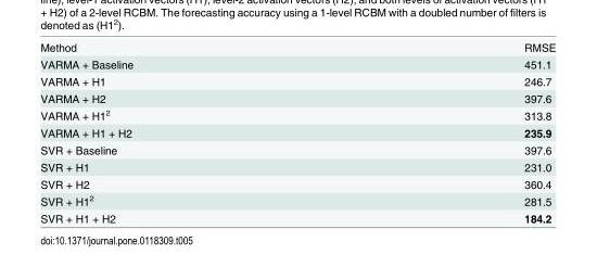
<table><tbody><tr><td>Method</td><td>RMSE</td></tr><tr><td>VARMA + Baseline</td><td>451.1</td></tr><tr><td>VARMA + H1</td><td>246.7</td></tr><tr><td>VARMA + H2</td><td>397.6</td></tr><tr><td>VARMA + H1<sup>2</sup></td><td>313.8</td></tr><tr><td>VARMA + H1 + H2</td><td>235.9</td></tr><tr><td>SVR + Baseline</td><td>397.6</td></tr><tr><td>SVR + H1</td><td>231.0</td></tr><tr><td>SVR + H2</td><td>360.4</td></tr><tr><td>SVR + H1<sup>2</sup></td><td>281.5</td></tr><tr><td>SVR + H1 + H2</td><td>184.2</td></tr></tbody></table>